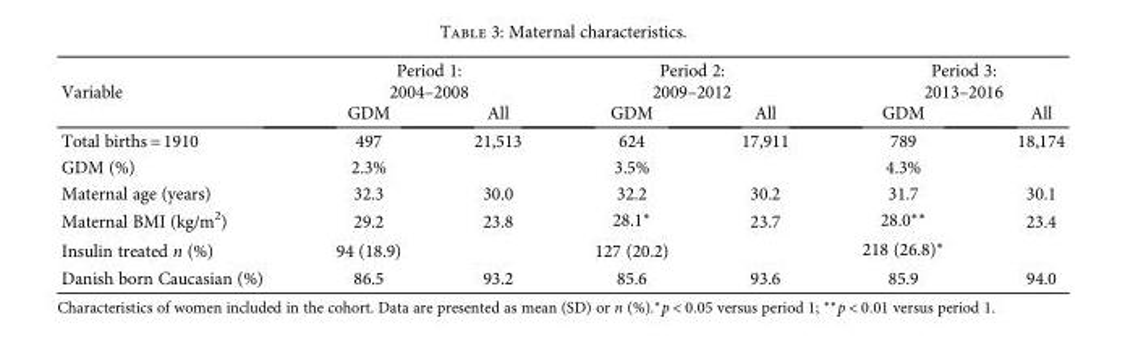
<table><thead><tr><td rowspan="2">Variable</td><td colspan="2">Period 1: 2004–2008</td><td colspan="2">Period 2: 2009–2012</td><td colspan="2">Period 3: 2013–2016</td></tr><tr><td>GDM</td><td>All</td><td>GDM</td><td>All</td><td>GDM</td><td>All</td></tr></thead><tbody><tr><td>Total births = 1910</td><td>497</td><td>21,513</td><td>624</td><td>17,911</td><td>789</td><td>18,174</td></tr><tr><td>GDM (%)</td><td>2.3%</td><td></td><td>3.5%</td><td></td><td>4.3%</td><td></td></tr><tr><td>Maternal age (years)</td><td>32.3</td><td>30.0</td><td>32.2</td><td>30.2</td><td>31.7</td><td>30.1</td></tr><tr><td>Maternal BMI (kg/m<sup>2</sup>)</td><td>29.2</td><td>23.8</td><td>28.1∗</td><td>23.7</td><td>28.0∗∗</td><td>23.4</td></tr><tr><td>Insulin treated n (%)</td><td>94 (18.9)</td><td></td><td>127 (20.2)</td><td></td><td>218 (26.8)∗</td><td></td></tr><tr><td>Danish born Caucasian (%)</td><td>86.5</td><td>93.2</td><td>85.6</td><td>93.6</td><td>85.9</td><td>94.0</td></tr></tbody></table>